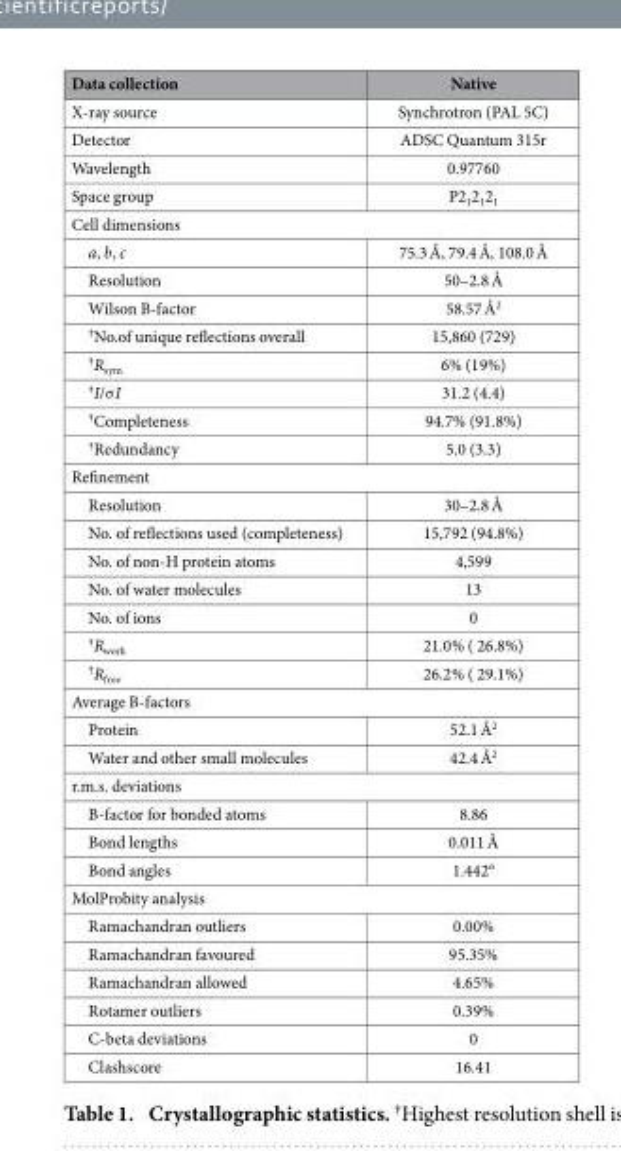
<table><thead><tr><td>Data collection</td><td>Native</td></tr></thead><tbody><tr><td>X-ray source</td><td>Synchrotron (PAL 5C)</td></tr><tr><td>Detector</td><td>ADSC Quantum 315r</td></tr><tr><td>Wavelength</td><td>0.97760</td></tr><tr><td>Space group</td><td>P2<sub>1</sub>2<sub>1</sub>2<sub>1</sub></td></tr><tr><td colspan="2">Cell dimensions</td></tr><tr><td>a, b, c</td><td>75.3 Å, 79.4 Å, 108.0 Å</td></tr><tr><td>Resolution</td><td>50–2.8 Å</td></tr><tr><td>Wilson B-factor</td><td>58.57 Å<sup>2</sup></td></tr><tr><td>†No.of unique reflections overall</td><td>15,860 (729)</td></tr><tr><td>†R<sub>sym</sub></td><td>6% (19%)</td></tr><tr><td>†I/σ I</td><td>31.2 (4.4)</td></tr><tr><td>†Completeness</td><td>94.7% (91.8%)</td></tr><tr><td>†Redundancy</td><td>5.0 (3.3)</td></tr><tr><td colspan="2">Refinement</td></tr><tr><td>Resolution</td><td>30–2.8 Å</td></tr><tr><td>No. of reflections used (completeness)</td><td>15,792 (94.8%)</td></tr><tr><td>No. of non-H protein atoms</td><td>4,599</td></tr><tr><td>No. of water molecules</td><td>13</td></tr><tr><td>No. of ions</td><td>0</td></tr><tr><td>†R<sub>work</sub></td><td>21.0% ( 26.8%)</td></tr><tr><td>†R<sub>free</sub></td><td>26.2% ( 29.1%)</td></tr><tr><td colspan="2">Average B-factors</td></tr><tr><td>Protein</td><td>52.1 Å<sup>2</sup></td></tr><tr><td>Water and other small molecules</td><td>42.4 Å<sup>2</sup></td></tr><tr><td colspan="2">r.m.s. deviations</td></tr><tr><td>B-factor for bonded atoms</td><td>8.86</td></tr><tr><td>Bond lengths</td><td>0.011 Å</td></tr><tr><td>Bond angles</td><td>1.442°</td></tr><tr><td colspan="2">MolProbity analysis</td></tr><tr><td>Ramachandran outliers</td><td>0.00%</td></tr><tr><td>Ramachandran favoured</td><td>95.35%</td></tr><tr><td>Ramachandran allowed</td><td>4.65%</td></tr><tr><td>Rotamer outliers</td><td>0.39%</td></tr><tr><td>C-beta deviations</td><td>0</td></tr><tr><td>Clashscore</td><td>16.41</td></tr></tbody></table>